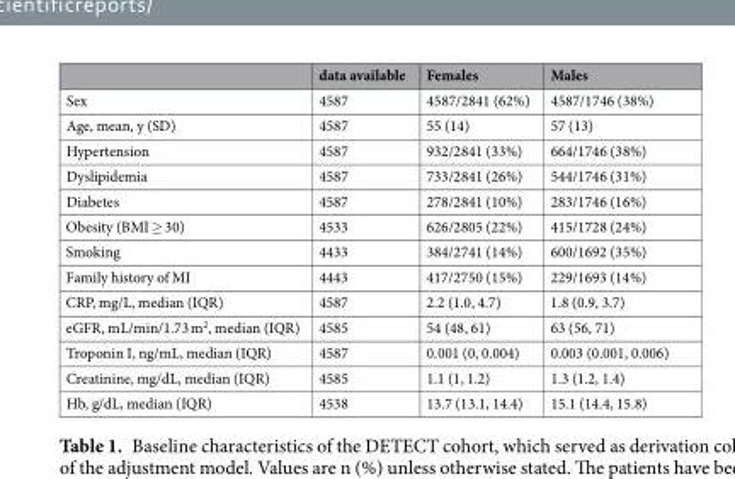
<table><thead><tr><td></td><td>data available</td><td>Females</td><td>Males</td></tr></thead><tbody><tr><td>Sex</td><td>4587</td><td>4587/2841 (62%)</td><td>4587/1746 (38%)</td></tr><tr><td>Age, mean, y (SD)</td><td>4587</td><td>55 (14)</td><td>57 (13)</td></tr><tr><td>Hypertension</td><td>4587</td><td>932/2841 (33%)</td><td>664/1746 (38%)</td></tr><tr><td>Dyslipidemia</td><td>4587</td><td>733/2841 (26%)</td><td>544/1746 (31%)</td></tr><tr><td>Diabetes</td><td>4587</td><td>278/2841 (10%)</td><td>283/1746 (16%)</td></tr><tr><td>Obesity (BMI ≥ 30)</td><td>4533</td><td>626/2805 (22%)</td><td>415/1728 (24%)</td></tr><tr><td>Smoking</td><td>4433</td><td>384/2741 (14%)</td><td>600/1692 (35%)</td></tr><tr><td>Family history of MI</td><td>4443</td><td>417/2750 (15%)</td><td>229/1693 (14%)</td></tr><tr><td>CRP, mg/L, median (IQR)</td><td>4587</td><td>2.2 (1.0, 4.7)</td><td>1.8 (0.9, 3.7)</td></tr><tr><td>eGFR, mL/min/1.73 m<sup>2</sup>, median (IQR)</td><td>4585</td><td>54 (48, 61)</td><td>63 (56, 71)</td></tr><tr><td>Troponin I, ng/mL, median (IQR)</td><td>4587</td><td>0.001 (0, 0.004)</td><td>0.003 (0.001, 0.006)</td></tr><tr><td>Creatinine, mg/dL, median (IQR)</td><td>4585</td><td>1.1 (1, 1.2)</td><td>1.3 (1.2, 1.4)</td></tr><tr><td>Hb, g/dL, median (IQR)</td><td>4538</td><td>13.7 (13.1, 14.4)</td><td>15.1 (14.4, 15.8)</td></tr></tbody></table>